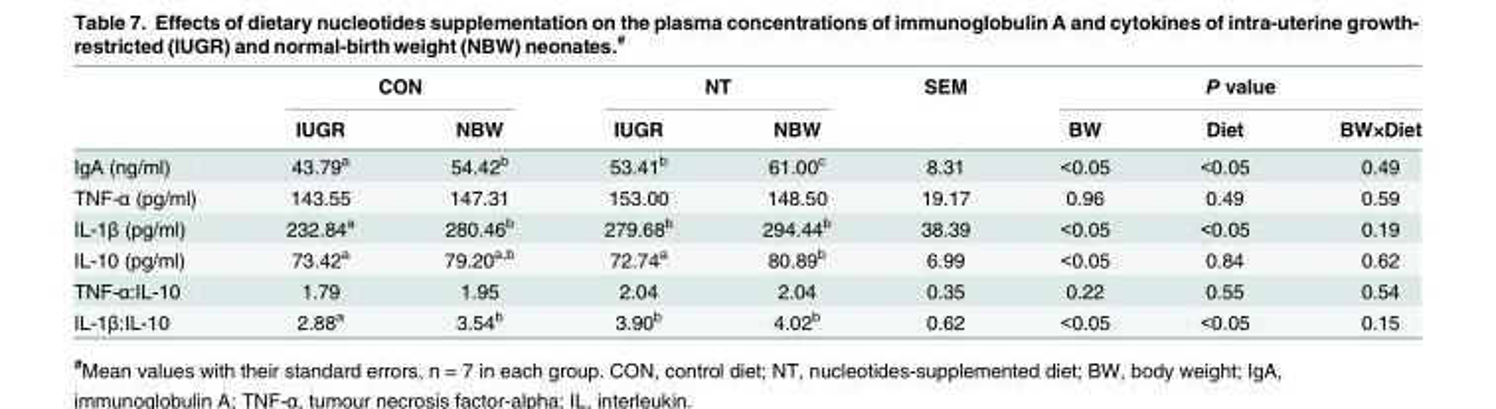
<table><thead><tr><td rowspan="2"></td><td colspan="2">CON</td><td colspan="2">NT</td><td rowspan="2">SEM</td><td colspan="3">P value</td></tr><tr><td>IUGR</td><td>NBW</td><td>IUGR</td><td>NBW</td><td>BW</td><td>Diet</td><td>BW×Diet</td></tr></thead><tbody><tr><td>IgA (ng/ml)</td><td>43.79<sup>a</sup></td><td>54.42<sup>b</sup></td><td>53.41<sup>b</sup></td><td>61.00<sup>c</sup></td><td>8.31</td><td>&lt;0.05</td><td>&lt;0.05</td><td>0.49</td></tr><tr><td>TNF-α (pg/ml)</td><td>143.55</td><td>147.31</td><td>153.00</td><td>148.50</td><td>19.17</td><td>0.96</td><td>0.49</td><td>0.59</td></tr><tr><td>IL-1β (pg/ml)</td><td>232.84<sup>a</sup></td><td>280.46<sup>b</sup></td><td>279.68<sup>b</sup></td><td>294.44<sup>b</sup></td><td>38.39</td><td>&lt;0.05</td><td>&lt;0.05</td><td>0.19</td></tr><tr><td>IL-10 (pg/ml)</td><td>73.42<sup>a</sup></td><td>79.20<sup>a,b</sup></td><td>72.74<sup>a</sup></td><td>80.89<sup>b</sup></td><td>6.99</td><td>&lt;0.05</td><td>0.84</td><td>0.62</td></tr><tr><td>TNF-α:IL-10</td><td>1.79</td><td>1.95</td><td>2.04</td><td>2.04</td><td>0.35</td><td>0.22</td><td>0.55</td><td>0.54</td></tr><tr><td>IL-1β:IL-10</td><td>2.88<sup>a</sup></td><td>3.54<sup>b</sup></td><td>3.90<sup>b</sup></td><td>4.02<sup>b</sup></td><td>0.62</td><td>&lt;0.05</td><td>&lt;0.05</td><td>0.15</td></tr></tbody></table>